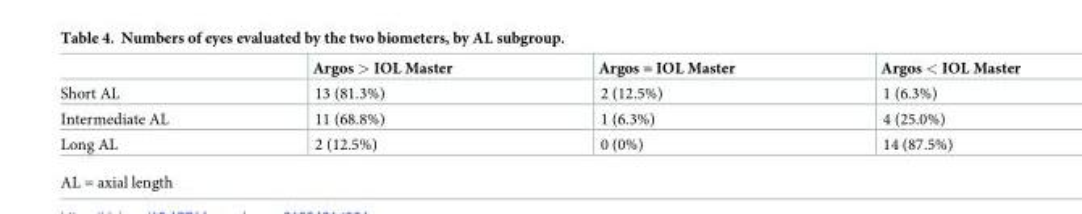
<table><thead><tr><td></td><td>Argos &gt; IOL Master</td><td>Argos = IOL Master</td><td>Argos &lt; IOL Master</td></tr></thead><tbody><tr><td>Short AL</td><td>13 (81.3%)</td><td>2 (12.5%)</td><td>1 (6.3%)</td></tr><tr><td>Intermediate AL</td><td>11 (68.8%)</td><td>1 (6.3%)</td><td>4 (25.0%)</td></tr><tr><td>Long AL</td><td>2 (12.5%)</td><td>0 (0%)</td><td>14 (87.5%)</td></tr></tbody></table>